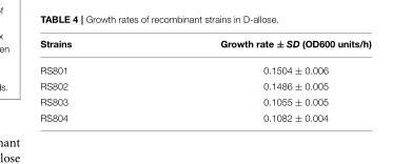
<table><thead><tr><td>Strains</td><td>Growth rate ± SD (OD600 units/h)</td></tr></thead><tbody><tr><td>RS801</td><td>0.1504 ± 0.006</td></tr><tr><td>RS802</td><td>0.1486 ± 0.005</td></tr><tr><td>RS803</td><td>0.1055 ± 0.005</td></tr><tr><td>RS804</td><td>0.1082 ± 0.004</td></tr></tbody></table>